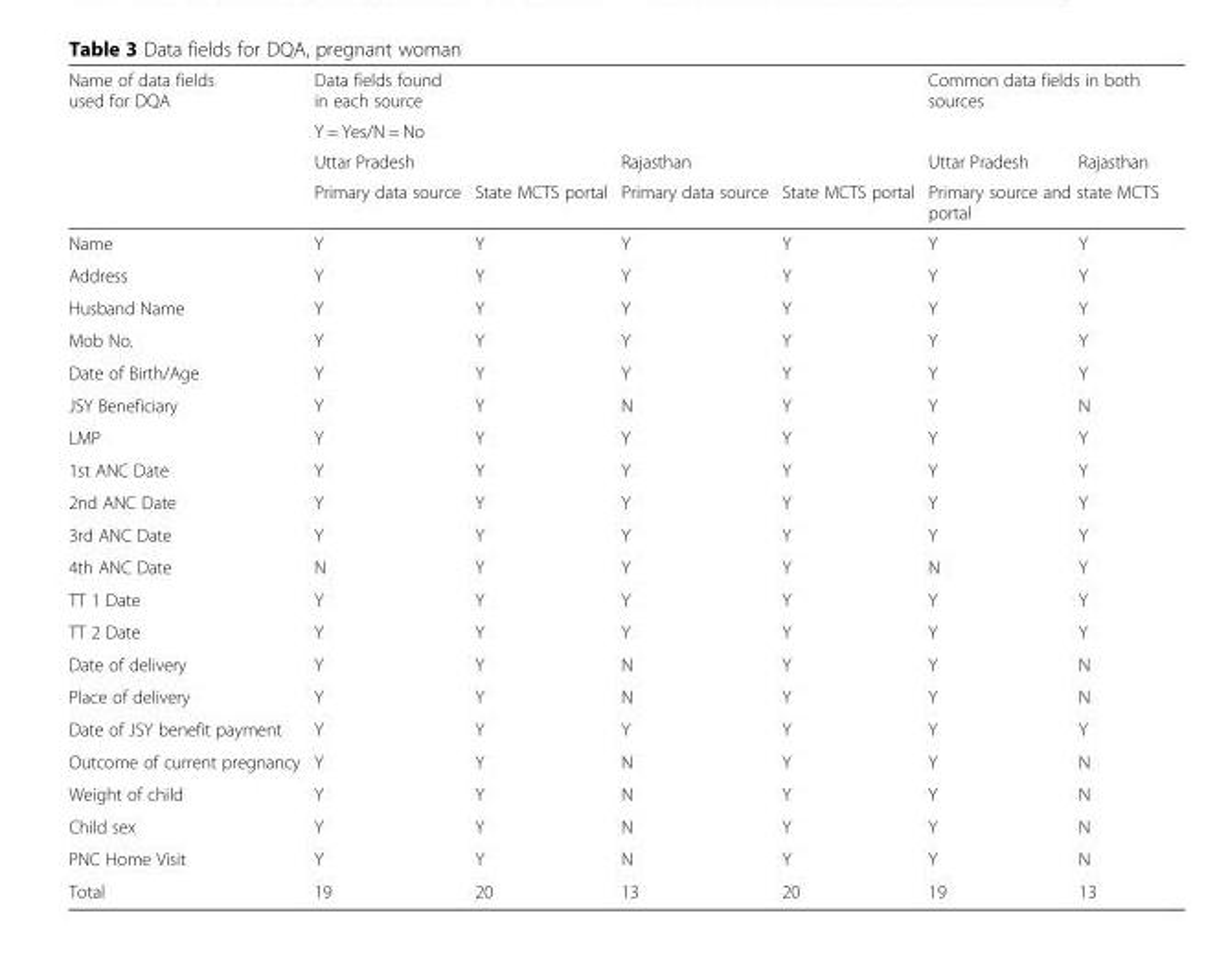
<table><thead><tr><td rowspan="4">Name of data fields used for DQA</td><td rowspan="2" colspan="4">Data fields found in each source Y = Yes/N = No</td><td rowspan="2" colspan="2">Common data fields in both sources</td></tr><tr></tr><tr><td colspan="2">Uttar Pradesh</td><td colspan="2">Rajasthan</td><td>Uttar Pradesh</td><td>Rajasthan</td></tr><tr><td>Primary data source</td><td>State MCTS portal</td><td>Primary data source</td><td>State MCTS portal</td><td colspan="2">Primary source and state MCTS portal</td></tr></thead><tbody><tr><td>Name</td><td>Y</td><td>Y</td><td>Y</td><td>Y</td><td>Y</td><td>Y</td></tr><tr><td>Address</td><td>Y</td><td>Y</td><td>Y</td><td>Y</td><td>Y</td><td>Y</td></tr><tr><td>Husband Name</td><td>Y</td><td>Y</td><td>Y</td><td>Y</td><td>Y</td><td>Y</td></tr><tr><td>Mob No.</td><td>Y</td><td>Y</td><td>Y</td><td>Y</td><td>Y</td><td>Y</td></tr><tr><td>Date of Birth/Age</td><td>Y</td><td>Y</td><td>Y</td><td>Y</td><td>Y</td><td>Y</td></tr><tr><td>JSY Beneficiary</td><td>Y</td><td>Y</td><td>N</td><td>Y</td><td>Y</td><td>N</td></tr><tr><td>LMP</td><td>Y</td><td>Y</td><td>Y</td><td>Y</td><td>Y</td><td>Y</td></tr><tr><td>1st ANC Date</td><td>Y</td><td>Y</td><td>Y</td><td>Y</td><td>Y</td><td>Y</td></tr><tr><td>2nd ANC Date</td><td>Y</td><td>Y</td><td>Y</td><td>Y</td><td>Y</td><td>Y</td></tr><tr><td>3rd ANC Date</td><td>Y</td><td>Y</td><td>Y</td><td>Y</td><td>Y</td><td>Y</td></tr><tr><td>4th ANC Date</td><td>N</td><td>Y</td><td>Y</td><td>Y</td><td>N</td><td>Y</td></tr><tr><td>TT 1 Date</td><td>Y</td><td>Y</td><td>Y</td><td>Y</td><td>Y</td><td>Y</td></tr><tr><td>TT 2 Date</td><td>Y</td><td>Y</td><td>Y</td><td>Y</td><td>Y</td><td>Y</td></tr><tr><td>Date of delivery</td><td>Y</td><td>Y</td><td>N</td><td>Y</td><td>Y</td><td>N</td></tr><tr><td>Place of delivery</td><td>Y</td><td>Y</td><td>N</td><td>Y</td><td>Y</td><td>N</td></tr><tr><td>Date of JSY benefit payment</td><td>Y</td><td>Y</td><td>Y</td><td>Y</td><td>Y</td><td>Y</td></tr><tr><td>Outcome of current pregnancy</td><td>Y</td><td>Y</td><td>N</td><td>Y</td><td>Y</td><td>N</td></tr><tr><td>Weight of child</td><td>Y</td><td>Y</td><td>N</td><td>Y</td><td>Y</td><td>N</td></tr><tr><td>Child sex</td><td>Y</td><td>Y</td><td>N</td><td>Y</td><td>Y</td><td>N</td></tr><tr><td>PNC Home Visit</td><td>Y</td><td>Y</td><td>N</td><td>Y</td><td>Y</td><td>N</td></tr><tr><td>Total</td><td>19</td><td>20</td><td>13</td><td>20</td><td>19</td><td>13</td></tr></tbody></table>